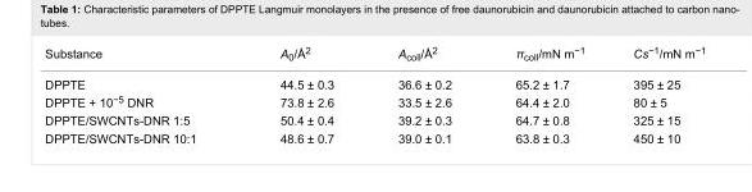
<table><tbody><tr><td>Substance</td><td>A<sub>0</sub>/Å<sup>2</sup></td><td>A<sub>coll</sub>/Å<sup>2</sup></td><td>π<sub>coll</sub>/mN m<sup>−1</sup></td><td>Cs<sup>−1</sup>/mN m<sup>−1</sup></td></tr><tr><td>DPPTE</td><td>44.5 ± 0.3</td><td>36.6 ± 0.2</td><td>65.2 ± 1.7</td><td>395 ± 25</td></tr><tr><td>DPPTE + 10<sup>−5</sup> DNR</td><td>73.8 ± 2.6</td><td>33.5 ± 2.6</td><td>64.4 ± 2.0</td><td>80 ± 5</td></tr><tr><td>DPPTE/SWCNTs-DNR 1:5</td><td>50.4 ± 0.4</td><td>39.2 ± 0.3</td><td>64.7 ± 0.8</td><td>325 ± 15</td></tr><tr><td>DPPTE/SWCNTs-DNR 10:1</td><td>48.6 ± 0.7</td><td>39.0 ± 0.1</td><td>63.8 ± 0.3</td><td>450 ± 10</td></tr></tbody></table>